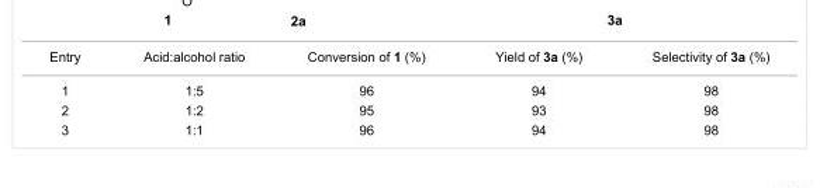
<table><tbody><tr><td>Entry</td><td>Acid:alcohol ratio</td><td>Conversion of 1 (%)</td><td>Yield of 3a (%)</td><td>Selectivity of 3a (%)</td></tr><tr><td>1</td><td>1:5</td><td>96</td><td>94</td><td>98</td></tr><tr><td>2</td><td>1:2</td><td>95</td><td>93</td><td>98</td></tr><tr><td>3</td><td>1:1</td><td>96</td><td>94</td><td>98</td></tr></tbody></table>